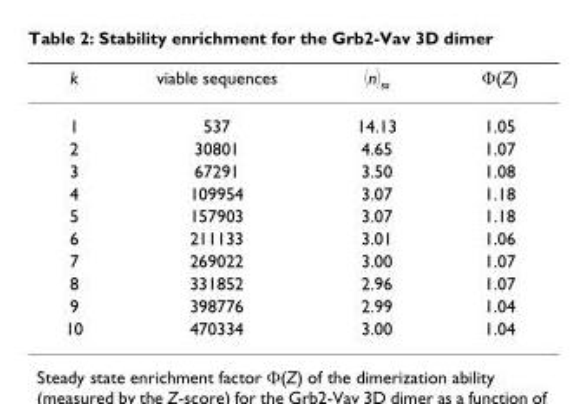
<table><thead><tr><td>k</td><td>viable sequences</td><td>⟨n⟩<sub>ss</sub></td><td>Φ(Z)</td></tr></thead><tbody><tr><td>1</td><td>537</td><td>14.13</td><td>1.05</td></tr><tr><td>2</td><td>30801</td><td>4.65</td><td>1.07</td></tr><tr><td>3</td><td>67291</td><td>3.50</td><td>1.08</td></tr><tr><td>4</td><td>109954</td><td>3.07</td><td>1.18</td></tr><tr><td>5</td><td>157903</td><td>3.07</td><td>1.18</td></tr><tr><td>6</td><td>211133</td><td>3.01</td><td>1.06</td></tr><tr><td>7</td><td>269022</td><td>3.00</td><td>1.07</td></tr><tr><td>8</td><td>331852</td><td>2.96</td><td>1.07</td></tr><tr><td>9</td><td>398776</td><td>2.99</td><td>1.04</td></tr><tr><td>10</td><td>470334</td><td>3.00</td><td>1.04</td></tr></tbody></table>